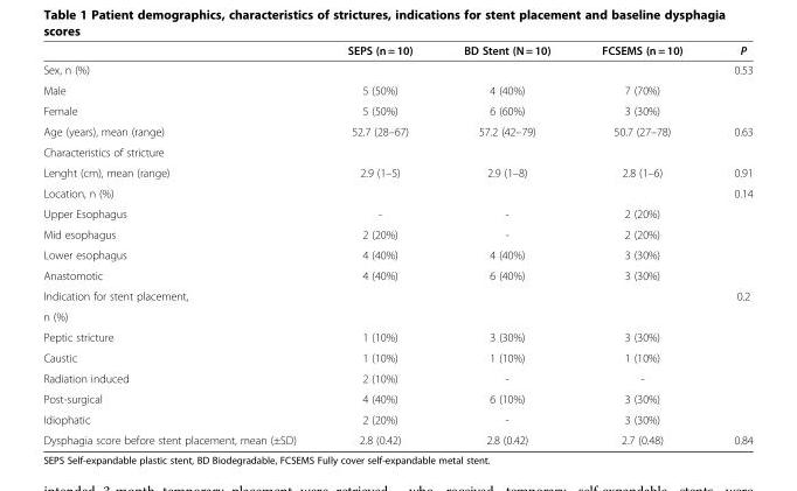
<table><thead><tr><td></td><td>SEPS (n = 10)</td><td>BD Stent (N = 10)</td><td>FCSEMS (n = 10)</td><td>P</td></tr></thead><tbody><tr><td>Sex, n (%)</td><td></td><td></td><td></td><td>0.53</td></tr><tr><td>Male</td><td>5 (50%)</td><td>4 (40%)</td><td>7 (70%)</td><td></td></tr><tr><td>Female</td><td>5 (50%)</td><td>6 (60%)</td><td>3 (30%)</td><td></td></tr><tr><td>Age (years), mean (range)</td><td>52.7 (28–67)</td><td>57.2 (42–79)</td><td>50.7 (27–78)</td><td>0.63</td></tr><tr><td colspan="5">Characteristics of stricture</td></tr><tr><td>Lenght (cm), mean (range)</td><td>2.9 (1–5)</td><td>2.9 (1–8)</td><td>2.8 (1–6)</td><td>0.91</td></tr><tr><td>Location, n (%)</td><td></td><td></td><td></td><td>0.14</td></tr><tr><td>Upper Esophagus</td><td>-</td><td>-</td><td>2 (20%)</td><td></td></tr><tr><td>Mid esophagus</td><td>2 (20%)</td><td>-</td><td>2 (20%)</td><td></td></tr><tr><td>Lower esophagus</td><td>4 (40%)</td><td>4 (40%)</td><td>3 (30%)</td><td></td></tr><tr><td>Anastomotic</td><td>4 (40%)</td><td>6 (40%)</td><td>3 (30%)</td><td></td></tr><tr><td>Indication for stent placement,</td><td></td><td></td><td></td><td>0.2</td></tr><tr><td colspan="5">n (%)</td></tr><tr><td>Peptic stricture</td><td>1 (10%)</td><td>3 (30%)</td><td>3 (30%)</td><td></td></tr><tr><td>Caustic</td><td>1 (10%)</td><td>1 (10%)</td><td>1 (10%)</td><td></td></tr><tr><td>Radiation induced</td><td>2 (10%)</td><td>-</td><td>-</td><td></td></tr><tr><td>Post-surgical</td><td>4 (40%)</td><td>6 (10%)</td><td>3 (30%)</td><td></td></tr><tr><td>Idiophatic</td><td>2 (20%)</td><td>-</td><td>3 (30%)</td><td></td></tr><tr><td>Dysphagia score before stent placement, mean (±SD)</td><td>2.8 (0.42)</td><td>2.8 (0.42)</td><td>2.7 (0.48)</td><td>0.84</td></tr></tbody></table>